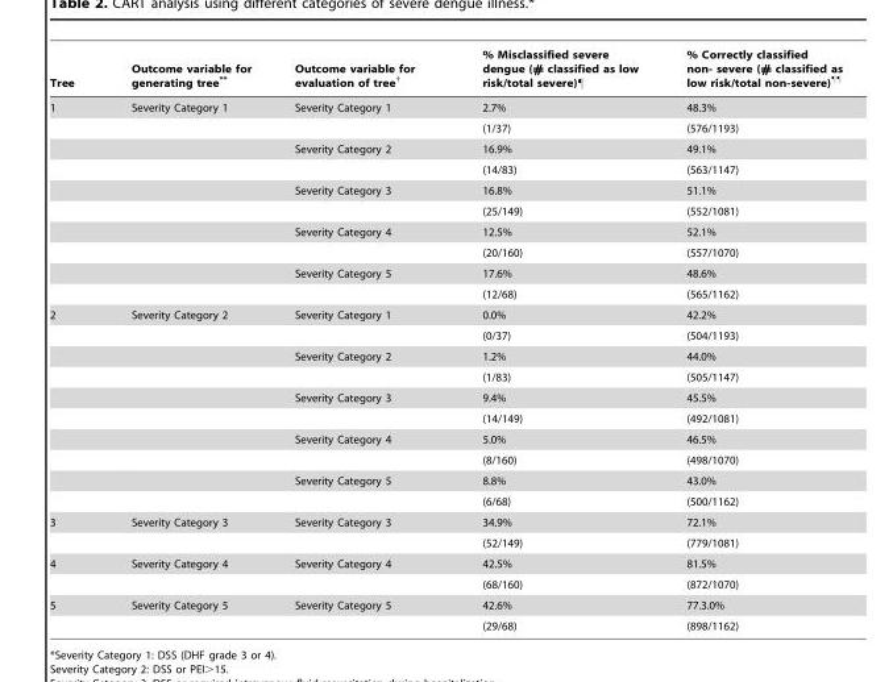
<table><thead><tr><td>Tree</td><td>Outcome variable for generating tree**</td><td>Outcome variable for evaluation of tree†</td><td>% Misclassified severe dengue (# classified as low risk/total severe)¶</td><td>% Correctly classified non- severe (# classified as low risk/total non-severe)¶¶</td></tr></thead><tbody><tr><td rowspan="10">1</td><td>Severity Category 1</td><td>Severity Category 1</td><td>2.7%</td><td>48.3%</td></tr><tr><td></td><td></td><td>(1/37)</td><td>(576/1193)</td></tr><tr><td></td><td>Severity Category 2</td><td>16.9%</td><td>49.1%</td></tr><tr><td></td><td></td><td>(14/83)</td><td>(563/1147)</td></tr><tr><td></td><td>Severity Category 3</td><td>16.8%</td><td>51.1%</td></tr><tr><td></td><td></td><td>(25/149)</td><td>(552/1081)</td></tr><tr><td></td><td>Severity Category 4</td><td>12.5%</td><td>52.1%</td></tr><tr><td></td><td></td><td>(20/160)</td><td>(557/1070)</td></tr><tr><td></td><td>Severity Category 5</td><td>17.6%</td><td>48.6%</td></tr><tr><td></td><td></td><td>(12/68)</td><td>(565/1162)</td></tr><tr><td rowspan="10">2</td><td>Severity Category 2</td><td>Severity Category 1</td><td>0.0%</td><td>42.2%</td></tr><tr><td></td><td></td><td>(0/37)</td><td>(504/1193)</td></tr><tr><td></td><td>Severity Category 2</td><td>1.2%</td><td>44.0%</td></tr><tr><td></td><td></td><td>(1/83)</td><td>(505/1147)</td></tr><tr><td></td><td>Severity Category 3</td><td>9.4%</td><td>45.5%</td></tr><tr><td></td><td></td><td>(14/149)</td><td>(492/1081)</td></tr><tr><td></td><td>Severity Category 4</td><td>5.0%</td><td>46.5%</td></tr><tr><td></td><td></td><td>(8/160)</td><td>(498/1070)</td></tr><tr><td></td><td>Severity Category 5</td><td>8.8%</td><td>43.0%</td></tr><tr><td></td><td></td><td>(6/68)</td><td>(500/1162)</td></tr><tr><td rowspan="2">3</td><td>Severity Category 3</td><td>Severity Category 3</td><td>34.9%</td><td>72.1%</td></tr><tr><td></td><td></td><td>(52/149)</td><td>(779/1081)</td></tr><tr><td rowspan="2">4</td><td>Severity Category 4</td><td>Severity Category 4</td><td>42.5%</td><td>81.5%</td></tr><tr><td></td><td></td><td>(68/160)</td><td>(872/1070)</td></tr><tr><td rowspan="2">5</td><td>Severity Category 5</td><td>Severity Category 5</td><td>42.6%</td><td>77.3.0%</td></tr><tr><td></td><td></td><td>(29/68)</td><td>(898/1162)</td></tr></tbody></table>